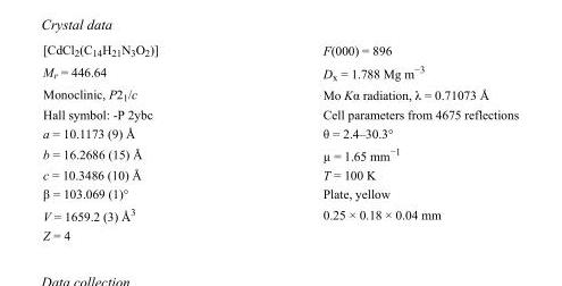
<table><tbody><tr><td>[CdCl<sub>2</sub>(C<sub>14</sub>H<sub>21</sub>N<sub>3</sub>O<sub>2</sub>)]</td><td>F(000) = 896</td></tr><tr><td>M<sub>r</sub> = 446.64</td><td>D<sub>x</sub> = 1.788 Mg m<sup>−3</sup></td></tr><tr><td>Monoclinic, P2<sub>1</sub>/c</td><td>Mo Kα radiation, λ = 0.71073 Å</td></tr><tr><td>Hall symbol: -P 2ybc</td><td>Cell parameters from 4675 reflections</td></tr><tr><td>a = 10.1173 (9) Å</td><td>θ = 2.4–30.3°</td></tr><tr><td>b = 16.2686 (15) Å</td><td>µ = 1.65 mm<sup>−1</sup></td></tr><tr><td>c = 10.3486 (10) Å</td><td>T = 100 K</td></tr><tr><td>β = 103.069 (1)°</td><td>Plate, yellow</td></tr><tr><td>V = 1659.2 (3) Å<sup>3</sup></td><td>0.25 × 0.18 × 0.04 mm</td></tr><tr><td>Z = 4</td><td></td></tr></tbody></table>